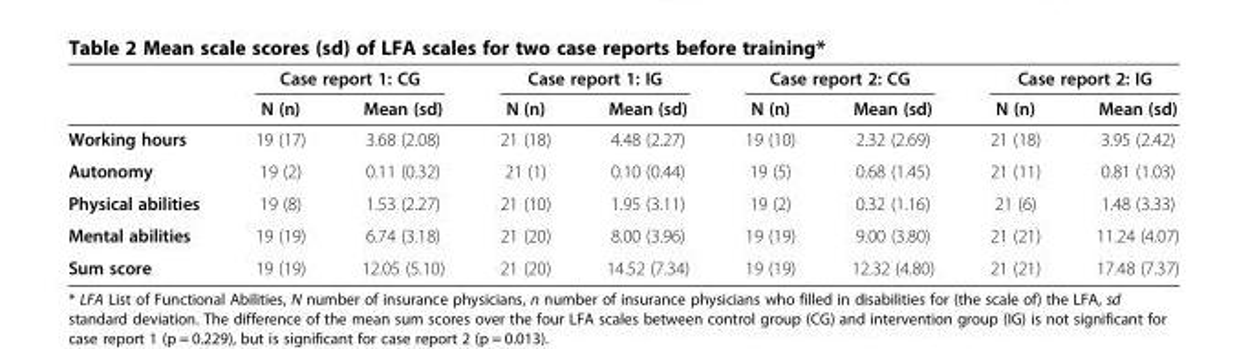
<table><thead><tr><td rowspan="2"></td><td colspan="2">Case report 1: CG</td><td colspan="2">Case report 1: IG</td><td colspan="2">Case report 2: CG</td><td colspan="2">Case report 2: IG</td></tr><tr><td>N (n)</td><td>Mean (sd)</td><td>N (n)</td><td>Mean (sd)</td><td>N (n)</td><td>Mean (sd)</td><td>N (n)</td><td>Mean (sd)</td></tr></thead><tbody><tr><td>Working hours</td><td>19 (17)</td><td>3.68 (2.08)</td><td>21 (18)</td><td>4.48 (2.27)</td><td>19 (10)</td><td>2.32 (2.69)</td><td>21 (18)</td><td>3.95 (2.42)</td></tr><tr><td>Autonomy</td><td>19 (2)</td><td>0.11 (0.32)</td><td>21 (1)</td><td>0.10 (0.44)</td><td>19 (5)</td><td>0.68 (1.45)</td><td>21 (11)</td><td>0.81 (1.03)</td></tr><tr><td>Physical abilities</td><td>19 (8)</td><td>1.53 (2.27)</td><td>21 (10)</td><td>1.95 (3.11)</td><td>19 (2)</td><td>0.32 (1.16)</td><td>21 (6)</td><td>1.48 (3.33)</td></tr><tr><td>Mental abilities</td><td>19 (19)</td><td>6.74 (3.18)</td><td>21 (20)</td><td>8.00 (3.96)</td><td>19 (19)</td><td>9.00 (3.80)</td><td>21 (21)</td><td>11.24 (4.07)</td></tr><tr><td>Sum score</td><td>19 (19)</td><td>12.05 (5.10)</td><td>21 (20)</td><td>14.52 (7.34)</td><td>19 (19)</td><td>12.32 (4.80)</td><td>21 (21)</td><td>17.48 (7.37)</td></tr></tbody></table>